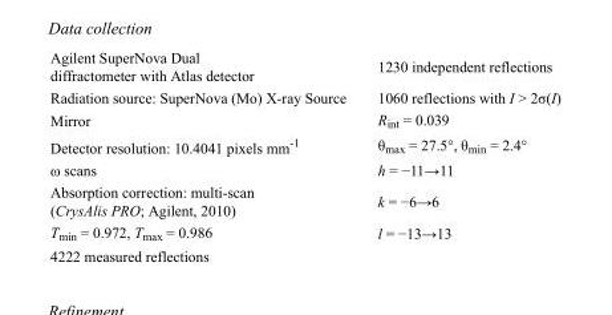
<table><tbody><tr><td>Agilent SuperNova Dual diffractometer with Atlas detector</td><td>1230 independent reflections</td></tr><tr><td>Radiation source: SuperNova (Mo) X-ray Source</td><td>1060 reflections with I &gt; 2σ(I)</td></tr><tr><td>Mirror</td><td>R<sub>int</sub> = 0.039</td></tr><tr><td>Detector resolution: 10.4041 pixels mm<sup>-1</sup></td><td>θ<sub>max</sub> = 27.5°, θ<sub>min</sub> = 2.4°</td></tr><tr><td>ω scans</td><td>h = −11→11</td></tr><tr><td>Absorption correction: multi-scan (CrysAlis PRO; Agilent, 2010)</td><td>k = −6→6</td></tr><tr><td>T<sub>min</sub> = 0.972, T<sub>max</sub> = 0.986</td><td>l = −13→13</td></tr><tr><td>4222 measured reflections</td><td></td></tr></tbody></table>